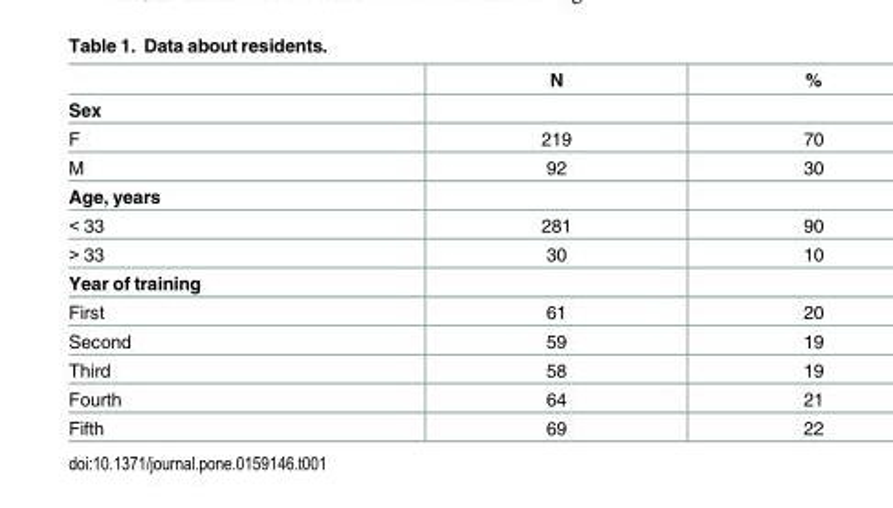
<table><thead><tr><td></td><td>N</td><td>%</td></tr></thead><tbody><tr><td colspan="3">Sex</td></tr><tr><td>F</td><td>219</td><td>70</td></tr><tr><td>M</td><td>92</td><td>30</td></tr><tr><td colspan="3">Age, years</td></tr><tr><td>&lt; 33</td><td>281</td><td>90</td></tr><tr><td>&gt; 33</td><td>30</td><td>10</td></tr><tr><td colspan="3">Year of training</td></tr><tr><td>First</td><td>61</td><td>20</td></tr><tr><td>Second</td><td>59</td><td>19</td></tr><tr><td>Third</td><td>58</td><td>19</td></tr><tr><td>Fourth</td><td>64</td><td>21</td></tr><tr><td>Fifth</td><td>69</td><td>22</td></tr></tbody></table>